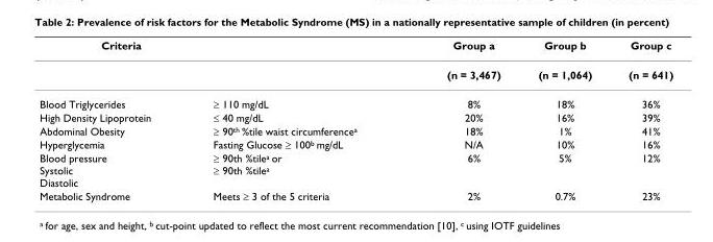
<table><thead><tr><td>Criteria</td><td></td><td>Group a</td><td>Group b</td><td>Group c</td></tr></thead><tbody><tr><td></td><td></td><td>(n = 3,467)</td><td>(n = 1,064)</td><td>(n = 641)</td></tr><tr><td>Blood Triglycerides</td><td>≥ 110 mg/dL</td><td>8%</td><td>18%</td><td>36%</td></tr><tr><td>High Density Lipoprotein</td><td>≤ 40 mg/dL</td><td>20%</td><td>16%</td><td>39%</td></tr><tr><td>Abdominal Obesity</td><td>≥ 90<sup>th</sup> %tile waist circumference<sup>a</sup></td><td>18%</td><td>1%</td><td>41%</td></tr><tr><td>Hyperglycemia</td><td>Fasting Glucose ≥ 100<sup>b</sup> mg/dL</td><td>N/A</td><td>10%</td><td>16%</td></tr><tr><td>Blood pressure Systolic Diastolic</td><td>≥ 90th %tile<sup>a</sup> or ≥ 90th %tile<sup>a</sup></td><td>6%</td><td>5%</td><td>12%</td></tr><tr><td>Metabolic Syndrome</td><td>Meets ≥ 3 of the 5 criteria</td><td>2%</td><td>0.7%</td><td>23%</td></tr></tbody></table>